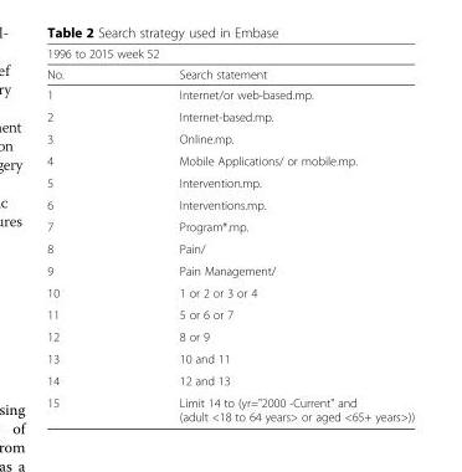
<table><thead><tr><td colspan="2">1996 to 2015 week 52</td></tr><tr><td>No.</td><td>Search statement</td></tr></thead><tbody><tr><td>1</td><td>Internet/or web-based.mp.</td></tr><tr><td>2</td><td>Internet-based.mp.</td></tr><tr><td>3</td><td>Online.mp.</td></tr><tr><td>4</td><td>Mobile Applications/ or mobile.mp.</td></tr><tr><td>5</td><td>Intervention.mp.</td></tr><tr><td>6</td><td>Interventions.mp.</td></tr><tr><td>7</td><td>Program*.mp.</td></tr><tr><td>8</td><td>Pain/</td></tr><tr><td>9</td><td>Pain Management/</td></tr><tr><td>10</td><td>1 or 2 or 3 or 4</td></tr><tr><td>11</td><td>5 or 6 or 7</td></tr><tr><td>12</td><td>8 or 9</td></tr><tr><td>13</td><td>10 and 11</td></tr><tr><td>14</td><td>12 and 13</td></tr><tr><td>15</td><td>Limit 14 to (yr=&quot;2000 -Current&quot; and (adult &lt;18 to 64 years&gt; or aged &lt;65+ years&gt;))</td></tr></tbody></table>